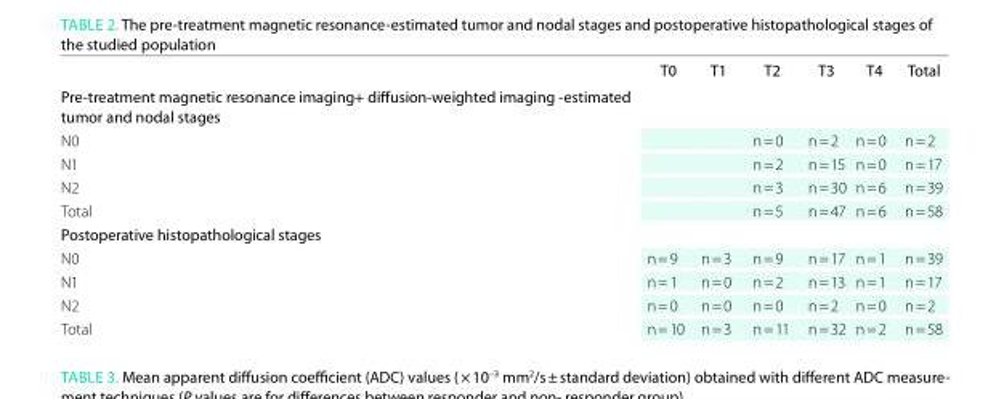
<table><thead><tr><td></td><td>t0</td><td>t1</td><td>t2</td><td>t3</td><td>t4</td><td>total</td></tr></thead><tbody><tr><td colspan="7">Pre-treatment magnetic resonance imaging+ diffusion-weighted imaging -estimated tumor and nodal stages</td></tr><tr><td>N0</td><td></td><td></td><td>n = 0</td><td>n = 2</td><td>n = 0</td><td>n = 2</td></tr><tr><td>N1</td><td></td><td></td><td>n = 2</td><td>n = 15</td><td>n = 0</td><td>n = 17</td></tr><tr><td>N2</td><td></td><td></td><td>n = 3</td><td>n = 30</td><td>n = 6</td><td>n = 39</td></tr><tr><td>Total</td><td></td><td></td><td>n = 5</td><td>n = 47</td><td>n = 6</td><td>n = 58</td></tr><tr><td colspan="7">Postoperative histopathological stages</td></tr><tr><td>N0</td><td>n = 9</td><td>n = 3</td><td>n = 9</td><td>n = 17</td><td>n = 1</td><td>n = 39</td></tr><tr><td>N1</td><td>n = 1</td><td>n = 0</td><td>n = 2</td><td>n = 13</td><td>n = 1</td><td>n = 17</td></tr><tr><td>N2</td><td>n = 0</td><td>n = 0</td><td>n = 0</td><td>n = 2</td><td>n = 0</td><td>n = 2</td></tr><tr><td>Total</td><td>n = 10</td><td>n = 3</td><td>n = 11</td><td>n = 32</td><td>n = 2</td><td>n = 58</td></tr></tbody></table>